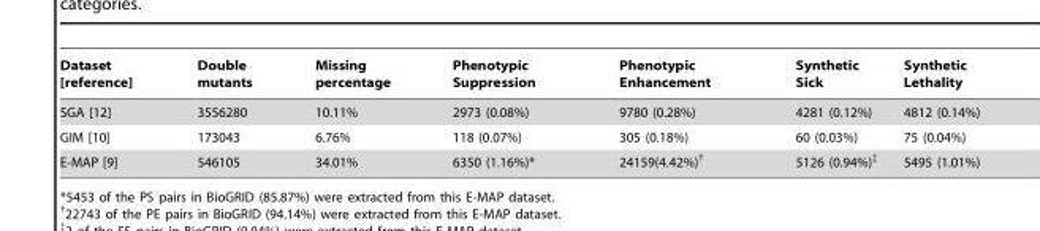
<table><thead><tr><td>Dataset [reference]</td><td>Double mutants</td><td>Missing percentage</td><td>Phenotypic Suppression</td><td>Phenotypic Enhancement</td><td>Synthetic Sick</td><td>Synthetic Lethality</td></tr></thead><tbody><tr><td>SGA [12]</td><td>3556280</td><td>10.11%</td><td>2973 (0.08%)</td><td>9780 (0.28%)</td><td>4281 (0.12%)</td><td>4812 (0.14%)</td></tr><tr><td>GIM [10]</td><td>173043</td><td>6.76%</td><td>118 (0.07%)</td><td>305 (0.18%)</td><td>60 (0.03%)</td><td>75 (0.04%)</td></tr><tr><td>E-MAP [9]</td><td>546105</td><td>34.01%</td><td>6350 (1.16%)*</td><td>24159(4.42%)†</td><td>5126 (0.94%)‡</td><td>5495 (1.01%)</td></tr></tbody></table>